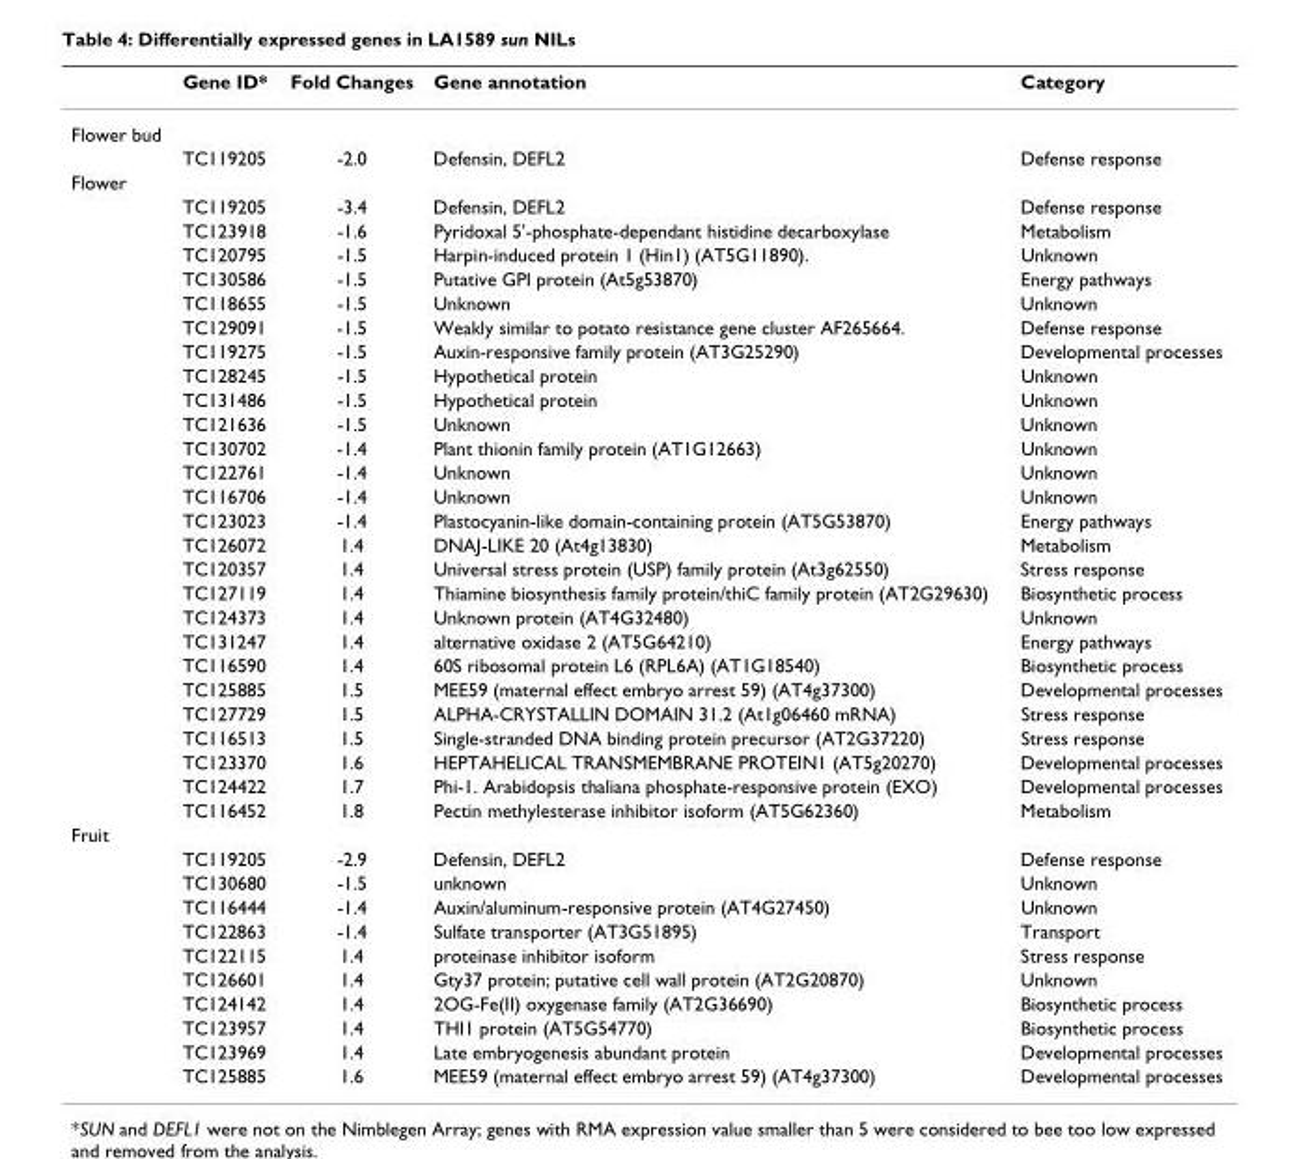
<table><thead><tr><td></td><td>Gene ID*</td><td>Fold Changes</td><td>Gene annotation</td><td>Category</td></tr></thead><tbody><tr><td colspan="5">Flower bud</td></tr><tr><td></td><td>TC119205</td><td>-2.0</td><td>Defensin, DEFL2</td><td>Defense response</td></tr><tr><td colspan="5">Flower</td></tr><tr><td></td><td>TC119205</td><td>-3.4</td><td>Defensin, DEFL2</td><td>Defense response</td></tr><tr><td></td><td>TC123918</td><td>-1.6</td><td>Pyridoxal 5&#x27;-phosphate-dependant histidine decarboxylase</td><td>Metabolism</td></tr><tr><td></td><td>TC120795</td><td>-1.5</td><td>Harpin-induced protein 1 (Hin1) (AT5G11890).</td><td>Unknown</td></tr><tr><td></td><td>TC130586</td><td>-1.5</td><td>Putative GPI protein (At5g53870)</td><td>Energy pathways</td></tr><tr><td></td><td>TC118655</td><td>-1.5</td><td>Unknown</td><td>Unknown</td></tr><tr><td></td><td>TC129091</td><td>-1.5</td><td>Weakly similar to potato resistance gene cluster AF265664.</td><td>Defense response</td></tr><tr><td></td><td>TC119275</td><td>-1.5</td><td>Auxin-responsive family protein (AT3G25290)</td><td>Developmental processes</td></tr><tr><td></td><td>TC128245</td><td>-1.5</td><td>Hypothetical protein</td><td>Unknown</td></tr><tr><td></td><td>TC131486</td><td>-1.5</td><td>Hypothetical protein</td><td>Unknown</td></tr><tr><td></td><td>TC121636</td><td>-1.5</td><td>Unknown</td><td>Unknown</td></tr><tr><td></td><td>TC130702</td><td>-1.4</td><td>Plant thionin family protein (AT1G12663)</td><td>Unknown</td></tr><tr><td></td><td>TC122761</td><td>-1.4</td><td>Unknown</td><td>Unknown</td></tr><tr><td></td><td>TC116706</td><td>-1.4</td><td>Unknown</td><td>Unknown</td></tr><tr><td></td><td>TC123023</td><td>-1.4</td><td>Plastocyanin-like domain-containing protein (AT5G53870)</td><td>Energy pathways</td></tr><tr><td></td><td>TC126072</td><td>1.4</td><td>DNAJ-LIKE 20 (At4g13830)</td><td>Metabolism</td></tr><tr><td></td><td>TC120357</td><td>1.4</td><td>Universal stress protein (USP) family protein (At3g62550)</td><td>Stress response</td></tr><tr><td></td><td>TC127119</td><td>1.4</td><td>Thiamine biosynthesis family protein/thiC family protein (AT2G29630)</td><td>Biosynthetic process</td></tr><tr><td></td><td>TC124373</td><td>1.4</td><td>Unknown protein (AT4G32480)</td><td>Unknown</td></tr><tr><td></td><td>TC131247</td><td>1.4</td><td>alternative oxidase 2 (AT5G64210)</td><td>Energy pathways</td></tr><tr><td></td><td>TC116590</td><td>1.4</td><td>60S ribosomal protein L6 (RPL6A) (AT1G18540)</td><td>Biosynthetic process</td></tr><tr><td></td><td>TC125885</td><td>1.5</td><td>MEE59 (maternal effect embryo arrest 59) (AT4g37300)</td><td>Developmental processes</td></tr><tr><td></td><td>TC127729</td><td>1.5</td><td>ALPHA-CRYSTALLIN DOMAIN 31.2 (At1g06460 mRNA)</td><td>Stress response</td></tr><tr><td></td><td>TC116513</td><td>1.5</td><td>Single-stranded DNA binding protein precursor (AT2G37220)</td><td>Stress response</td></tr><tr><td></td><td>TC123370</td><td>1.6</td><td>HEPTAHELICAL TRANSMEMBRANE PROTEIN1 (AT5g20270)</td><td>Developmental processes</td></tr><tr><td></td><td>TC124422</td><td>1.7</td><td>Phi-1. Arabidopsis thaliana phosphate-responsive protein (EXO)</td><td>Developmental processes</td></tr><tr><td></td><td>TC116452</td><td>1.8</td><td>Pectin methylesterase inhibitor isoform (AT5G62360)</td><td>Metabolism</td></tr><tr><td colspan="5">Fruit</td></tr><tr><td></td><td>TC119205</td><td>-2.9</td><td>Defensin, DEFL2</td><td>Defense response</td></tr><tr><td></td><td>TC130680</td><td>-1.5</td><td>unknown</td><td>Unknown</td></tr><tr><td></td><td>TC116444</td><td>-1.4</td><td>Auxin/aluminum-responsive protein (AT4G27450)</td><td>Unknown</td></tr><tr><td></td><td>TC122863</td><td>-1.4</td><td>Sulfate transporter (AT3G51895)</td><td>Transport</td></tr><tr><td></td><td>TC122115</td><td>1.4</td><td>proteinase inhibitor isoform</td><td>Stress response</td></tr><tr><td></td><td>TC126601</td><td>1.4</td><td>Gty37 protein; putative cell wall protein (AT2G20870)</td><td>Unknown</td></tr><tr><td></td><td>TC124142</td><td>1.4</td><td>2OG-Fe(II) oxygenase family (AT2G36690)</td><td>Biosynthetic process</td></tr><tr><td></td><td>TC123957</td><td>1.4</td><td>THI1 protein (AT5G54770)</td><td>Biosynthetic process</td></tr><tr><td></td><td>TC123969</td><td>1.4</td><td>Late embryogenesis abundant protein</td><td>Developmental processes</td></tr><tr><td></td><td>TC125885</td><td>1.6</td><td>MEE59 (maternal effect embryo arrest 59) (AT4g37300)</td><td>Developmental processes</td></tr></tbody></table>